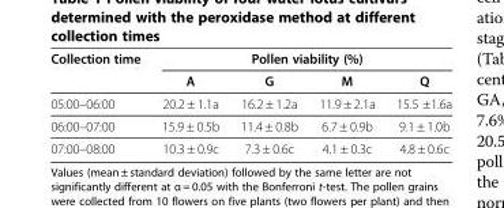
<table><thead><tr><td rowspan="2">Collection time</td><td colspan="4">Pollen viability (%)</td></tr><tr><td>A</td><td>G</td><td>M</td><td>Q</td></tr></thead><tbody><tr><td>05:00–06:00</td><td>20.2 ± 1.1a</td><td>16.2 ± 1.2a</td><td>11.9 ± 2.1a</td><td>15.5 ±1.6a</td></tr><tr><td>06:00–07:00</td><td>15.9 ± 0.5b</td><td>11.4 ± 0.8b</td><td>6.7 ± 0.9b</td><td>9.1 ± 1.0b</td></tr><tr><td>07:00–08:00</td><td>10.3 ± 0.9c</td><td>7.3 ± 0.6c</td><td>4.1 ± 0.3c</td><td>4.8 ± 0.6c</td></tr></tbody></table>